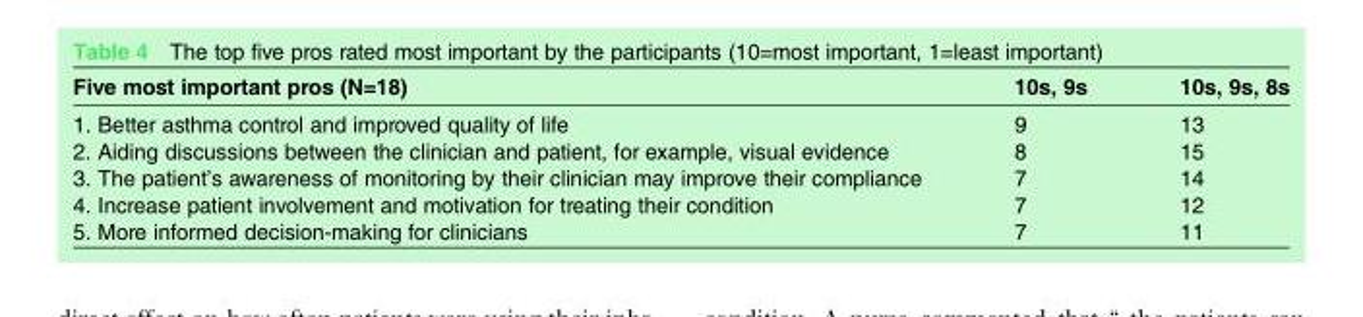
<table><thead><tr><td>Five most important pros (N=18)</td><td>10s, 9s</td><td>10s, 9s, 8s</td></tr></thead><tbody><tr><td>1. Better asthma control and improved quality of life</td><td>9</td><td>13</td></tr><tr><td>2. Aiding discussions between the clinician and patient, for example, visual evidence</td><td>8</td><td>15</td></tr><tr><td>3. The patient’s awareness of monitoring by their clinician may improve their compliance</td><td>7</td><td>14</td></tr><tr><td>4. Increase patient involvement and motivation for treating their condition</td><td>7</td><td>12</td></tr><tr><td>5. More informed decision-making for clinicians</td><td>7</td><td>11</td></tr></tbody></table>